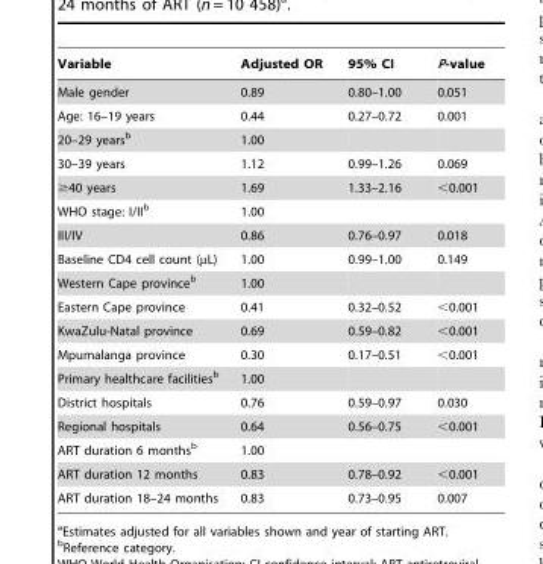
<table><thead><tr><td>Variable</td><td>Adjusted OR</td><td>95% CI</td><td>P-value</td></tr></thead><tbody><tr><td>Male gender</td><td>0.89</td><td>0.80–1.00</td><td>0.051</td></tr><tr><td>Age: 16–19 years</td><td>0.44</td><td>0.27–0.72</td><td>0.001</td></tr><tr><td>20–29 years<sup>b</sup></td><td>1.00</td><td></td><td></td></tr><tr><td>30–39 years</td><td>1.12</td><td>0.99–1.26</td><td>0.069</td></tr><tr><td>≥40 years</td><td>1.69</td><td>1.33–2.16</td><td>&lt;0.001</td></tr><tr><td>WHO stage: I/II<sup>b</sup></td><td>1.00</td><td></td><td></td></tr><tr><td>III/IV</td><td>0.86</td><td>0.76–0.97</td><td>0.018</td></tr><tr><td>Baseline CD4 cell count (µL)</td><td>1.00</td><td>0.99–1.00</td><td>0.149</td></tr><tr><td>Western Cape province<sup>b</sup></td><td>1.00</td><td></td><td></td></tr><tr><td>Eastern Cape province</td><td>0.41</td><td>0.32–0.52</td><td>&lt;0.001</td></tr><tr><td>KwaZulu-Natal province</td><td>0.69</td><td>0.59–0.82</td><td>&lt;0.001</td></tr><tr><td>Mpumalanga province</td><td>0.30</td><td>0.17–0.51</td><td>&lt;0.001</td></tr><tr><td>Primary healthcare facilities<sup>b</sup></td><td>1.00</td><td></td><td></td></tr><tr><td>District hospitals</td><td>0.76</td><td>0.59–0.97</td><td>0.030</td></tr><tr><td>Regional hospitals</td><td>0.64</td><td>0.56–0.75</td><td>&lt;0.001</td></tr><tr><td>ART duration 6 months<sup>b</sup></td><td>1.00</td><td></td><td></td></tr><tr><td>ART duration 12 months</td><td>0.83</td><td>0.78–0.92</td><td>&lt;0.001</td></tr><tr><td>ART duration 18–24 months</td><td>0.83</td><td>0.73–0.95</td><td>0.007</td></tr></tbody></table>